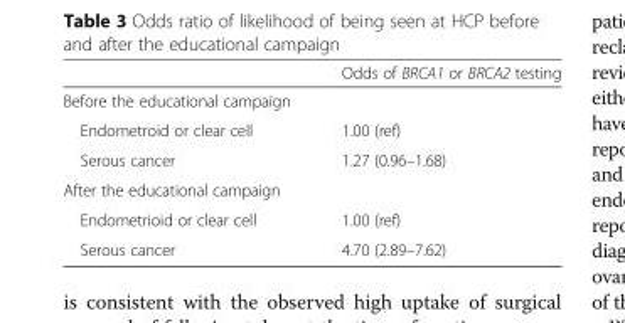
<table><thead><tr><td></td><td>Odds of BRCA1 or BRCA2 testing</td></tr></thead><tbody><tr><td colspan="2">Before the educational campaign</td></tr><tr><td>Endometroid or clear cell</td><td>1.00 (ref)</td></tr><tr><td>Serous cancer</td><td>1.27 (0.96–1.68)</td></tr><tr><td colspan="2">After the educational campaign</td></tr><tr><td>Endometrioid or clear cell</td><td>1.00 (ref)</td></tr><tr><td>Serous cancer</td><td>4.70 (2.89–7.62)</td></tr></tbody></table>